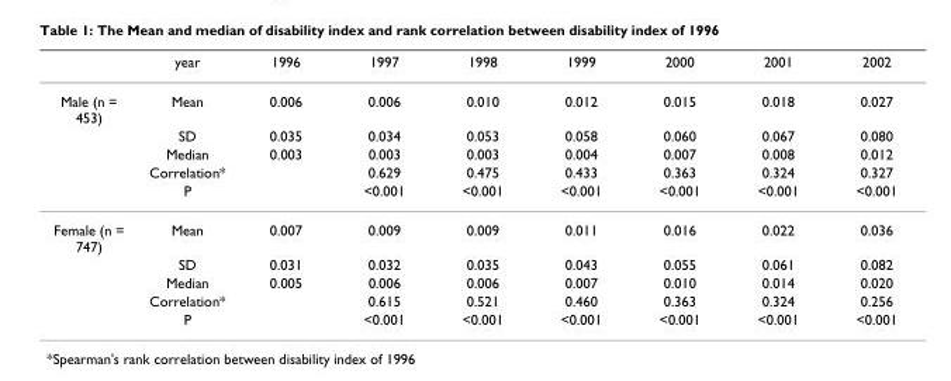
<table><thead><tr><td></td><td>year</td><td>1996</td><td>1997</td><td>1998</td><td>1999</td><td>2000</td><td>2001</td><td>2002</td></tr></thead><tbody><tr><td rowspan="5">Male (n = 453)</td><td>Mean</td><td>0.006</td><td>0.006</td><td>0.010</td><td>0.012</td><td>0.015</td><td>0.018</td><td>0.027</td></tr><tr><td>SD</td><td>0.035</td><td>0.034</td><td>0.053</td><td>0.058</td><td>0.060</td><td>0.067</td><td>0.080</td></tr><tr><td>Median</td><td>0.003</td><td>0.003</td><td>0.003</td><td>0.004</td><td>0.007</td><td>0.008</td><td>0.012</td></tr><tr><td>Correlation*</td><td></td><td>0.629</td><td>0.475</td><td>0.433</td><td>0.363</td><td>0.324</td><td>0.327</td></tr><tr><td>P</td><td></td><td>&lt;0.001</td><td>&lt;0.001</td><td>&lt;0.001</td><td>&lt;0.001</td><td>&lt;0.001</td><td>&lt;0.001</td></tr><tr><td rowspan="5">Female (n = 747)</td><td>Mean</td><td>0.007</td><td>0.009</td><td>0.009</td><td>0.011</td><td>0.016</td><td>0.022</td><td>0.036</td></tr><tr><td>SD</td><td>0.031</td><td>0.032</td><td>0.035</td><td>0.043</td><td>0.055</td><td>0.061</td><td>0.082</td></tr><tr><td>Median</td><td>0.005</td><td>0.006</td><td>0.006</td><td>0.007</td><td>0.010</td><td>0.014</td><td>0.020</td></tr><tr><td>Correlation*</td><td></td><td>0.615</td><td>0.521</td><td>0.460</td><td>0.363</td><td>0.324</td><td>0.256</td></tr><tr><td>P</td><td></td><td>&lt;0.001</td><td>&lt;0.001</td><td>&lt;0.001</td><td>&lt;0.001</td><td>&lt;0.001</td><td>&lt;0.001</td></tr></tbody></table>